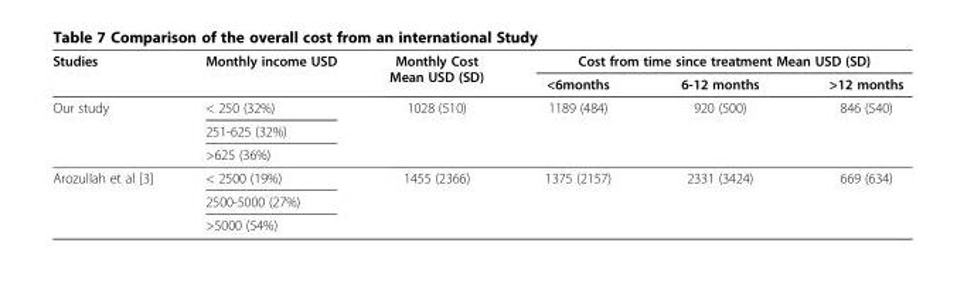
<table><thead><tr><td rowspan="2">Studies</td><td rowspan="2">Monthly income USD</td><td rowspan="2">Monthly Cost Mean USD (SD)</td><td colspan="3">Cost from time since treatment Mean USD (SD)</td></tr><tr><td>&lt;6months</td><td>6-12 months</td><td>&gt;12 months</td></tr></thead><tbody><tr><td rowspan="3">Our study</td><td>&lt; 250 (32%)</td><td rowspan="3">1028 (510)</td><td rowspan="3">1189 (484)</td><td rowspan="3">920 (500)</td><td rowspan="3">846 (540)</td></tr><tr><td>251-625 (32%)</td></tr><tr><td>&gt;625 (36%)</td></tr><tr><td rowspan="3">Arozullah et al [3]</td><td>&lt; 2500 (19%)</td><td rowspan="3">1455 (2366)</td><td rowspan="3">1375 (2157)</td><td rowspan="3">2331 (3424)</td><td rowspan="3">669 (634)</td></tr><tr><td>2500-5000 (27%)</td></tr><tr><td>&gt;5000 (54%)</td></tr></tbody></table>